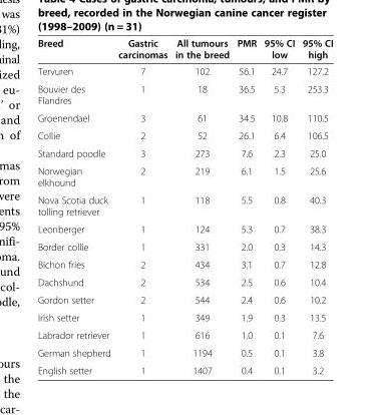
<table><thead><tr><td>Breed</td><td>Gastric carcinomas</td><td>All tumours in the breed</td><td>PMR</td><td>95% CI low</td><td>95% CI high</td></tr></thead><tbody><tr><td>Tervuren</td><td>7</td><td>102</td><td>56.1</td><td>24.7</td><td>127.2</td></tr><tr><td>Bouvier des Flandres</td><td>1</td><td>18</td><td>36.5</td><td>5.3</td><td>253.3</td></tr><tr><td>Groenendael</td><td>3</td><td>61</td><td>34.5</td><td>10.8</td><td>110.5</td></tr><tr><td>Collie</td><td>2</td><td>52</td><td>26.1</td><td>6.4</td><td>106.5</td></tr><tr><td>Standard poodle</td><td>3</td><td>273</td><td>7.6</td><td>2.3</td><td>25.0</td></tr><tr><td>Norwegian elkhound</td><td>2</td><td>219</td><td>6.1</td><td>1.5</td><td>25.6</td></tr><tr><td>Nova Scotia duck tolling retriever</td><td>1</td><td>118</td><td>5.5</td><td>0.8</td><td>40.3</td></tr><tr><td>Leonberger</td><td>1</td><td>124</td><td>5.3</td><td>0.7</td><td>38.3</td></tr><tr><td>Border collie</td><td>1</td><td>331</td><td>2.0</td><td>0.3</td><td>14.3</td></tr><tr><td>Bichon fries</td><td>2</td><td>434</td><td>3.1</td><td>0.7</td><td>12.8</td></tr><tr><td>Dachshund</td><td>2</td><td>534</td><td>2.5</td><td>0.6</td><td>10.4</td></tr><tr><td>Gordon setter</td><td>2</td><td>544</td><td>2.4</td><td>0.6</td><td>10.2</td></tr><tr><td>Irish setter</td><td>1</td><td>349</td><td>1.9</td><td>0.3</td><td>13.5</td></tr><tr><td>Labrador retriever</td><td>1</td><td>616</td><td>1.0</td><td>0.1</td><td>7.6</td></tr><tr><td>German shepherd</td><td>1</td><td>1194</td><td>0.5</td><td>0.1</td><td>3.8</td></tr><tr><td>English setter</td><td>1</td><td>1407</td><td>0.4</td><td>0.1</td><td>3.2</td></tr></tbody></table>